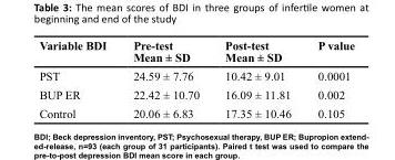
<table><thead><tr><td>Variable BDI</td><td>Pre-test Mean ± SD</td><td>Post-test Mean ± SD</td><td>P value</td></tr></thead><tbody><tr><td>PST</td><td>24.59 ± 7.76</td><td>10.42 ± 9.01</td><td>0.0001</td></tr><tr><td>BUP ER</td><td>22.42 ± 10.70</td><td>16.09 ± 11.81</td><td>0.002</td></tr><tr><td>Control</td><td>20.06 ± 6.83</td><td>17.35 ± 10.46</td><td>0.105</td></tr></tbody></table>